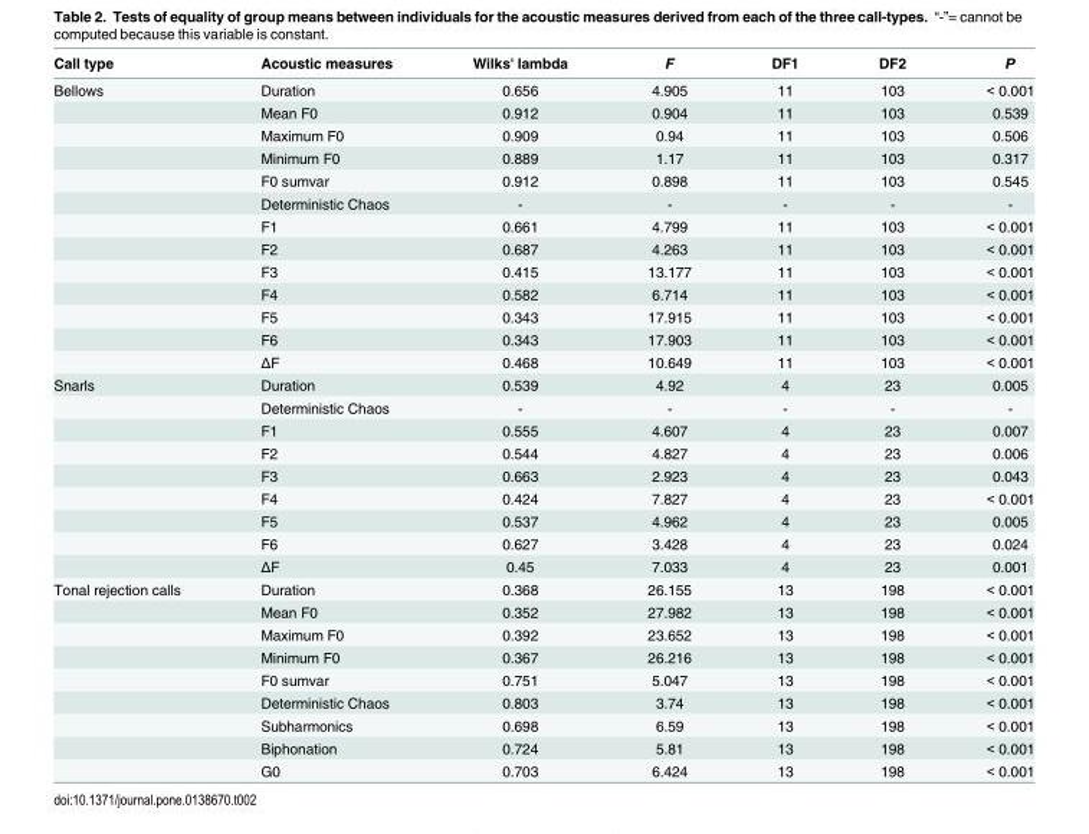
<table><thead><tr><td>Call type</td><td>Acoustic measures</td><td>Wilks&#x27; lambda</td><td>F</td><td>DF1</td><td>DF2</td><td>P</td></tr></thead><tbody><tr><td rowspan="13">Bellows</td><td>Duration</td><td>0.656</td><td>4.905</td><td>11</td><td>103</td><td>&lt; 0.001</td></tr><tr><td>Mean F0</td><td>0.912</td><td>0.904</td><td>11</td><td>103</td><td>0.539</td></tr><tr><td>Maximum F0</td><td>0.909</td><td>0.94</td><td>11</td><td>103</td><td>0.506</td></tr><tr><td>Minimum F0</td><td>0.889</td><td>1.17</td><td>11</td><td>103</td><td>0.317</td></tr><tr><td>F0 sumvar</td><td>0.912</td><td>0.898</td><td>11</td><td>103</td><td>0.545</td></tr><tr><td>Deterministic Chaos</td><td>-</td><td>-</td><td>-</td><td>-</td><td>-</td></tr><tr><td>F1</td><td>0.661</td><td>4.799</td><td>11</td><td>103</td><td>&lt; 0.001</td></tr><tr><td>F2</td><td>0.687</td><td>4.263</td><td>11</td><td>103</td><td>&lt; 0.001</td></tr><tr><td>F3</td><td>0.415</td><td>13.177</td><td>11</td><td>103</td><td>&lt; 0.001</td></tr><tr><td>F4</td><td>0.582</td><td>6.714</td><td>11</td><td>103</td><td>&lt; 0.001</td></tr><tr><td>F5</td><td>0.343</td><td>17.915</td><td>11</td><td>103</td><td>&lt; 0.001</td></tr><tr><td>F6</td><td>0.343</td><td>17.903</td><td>11</td><td>103</td><td>&lt; 0.001</td></tr><tr><td>ΔF</td><td>0.468</td><td>10.649</td><td>11</td><td>103</td><td>&lt; 0.001</td></tr><tr><td rowspan="9">Snarls</td><td>Duration</td><td>0.539</td><td>4.92</td><td>4</td><td>23</td><td>0.005</td></tr><tr><td>Deterministic Chaos</td><td>-</td><td>-</td><td>-</td><td>-</td><td>-</td></tr><tr><td>F1</td><td>0.555</td><td>4.607</td><td>4</td><td>23</td><td>0.007</td></tr><tr><td>F2</td><td>0.544</td><td>4.827</td><td>4</td><td>23</td><td>0.006</td></tr><tr><td>F3</td><td>0.663</td><td>2.923</td><td>4</td><td>23</td><td>0.043</td></tr><tr><td>F4</td><td>0.424</td><td>7.827</td><td>4</td><td>23</td><td>&lt; 0.001</td></tr><tr><td>F5</td><td>0.537</td><td>4.962</td><td>4</td><td>23</td><td>0.005</td></tr><tr><td>F6</td><td>0.627</td><td>3.428</td><td>4</td><td>23</td><td>0.024</td></tr><tr><td>ΔF</td><td>0.45</td><td>7.033</td><td>4</td><td>23</td><td>0.001</td></tr><tr><td rowspan="9">Tonal rejection calls</td><td>Duration</td><td>0.368</td><td>26.155</td><td>13</td><td>198</td><td>&lt; 0.001</td></tr><tr><td>Mean F0</td><td>0.352</td><td>27.982</td><td>13</td><td>198</td><td>&lt; 0.001</td></tr><tr><td>Maximum F0</td><td>0.392</td><td>23.652</td><td>13</td><td>198</td><td>&lt; 0.001</td></tr><tr><td>Minimum F0</td><td>0.367</td><td>26.216</td><td>13</td><td>198</td><td>&lt; 0.001</td></tr><tr><td>F0 sumvar</td><td>0.751</td><td>5.047</td><td>13</td><td>198</td><td>&lt; 0.001</td></tr><tr><td>Deterministic Chaos</td><td>0.803</td><td>3.74</td><td>13</td><td>198</td><td>&lt; 0.001</td></tr><tr><td>Subharmonics</td><td>0.698</td><td>6.59</td><td>13</td><td>198</td><td>&lt; 0.001</td></tr><tr><td>Biphonation</td><td>0.724</td><td>5.81</td><td>13</td><td>198</td><td>&lt; 0.001</td></tr><tr><td>G0</td><td>0.703</td><td>6.424</td><td>13</td><td>198</td><td>&lt; 0.001</td></tr></tbody></table>